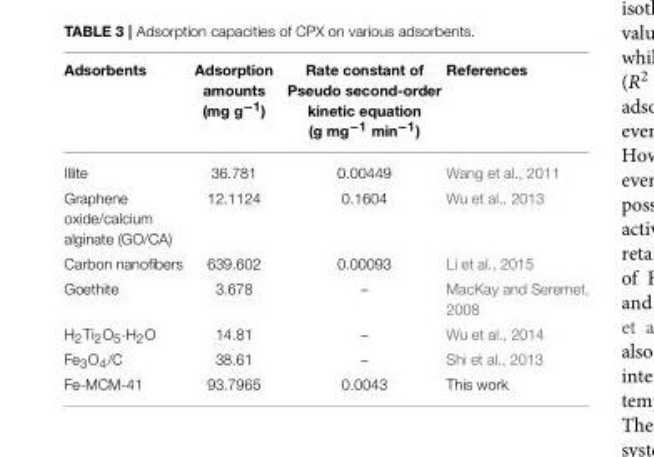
<table><thead><tr><td>Adsorbents</td><td>Adsorption amounts (mg g<sup>−1</sup>)</td><td>Rate constant of Pseudo second-order kinetic equation (g mg<sup>−1</sup> min<sup>−1</sup>)</td><td>References</td></tr></thead><tbody><tr><td>Illite</td><td>36.781</td><td>0.00449</td><td>Wang et al., 2011</td></tr><tr><td>Graphene oxide/calcium alginate (GO/CA)</td><td>12.1124</td><td>0.1604</td><td>Wu et al., 2013</td></tr><tr><td>Carbon nanofibers</td><td>639.602</td><td>0.00093</td><td>Li et al., 2015</td></tr><tr><td>Goethite</td><td>3.678</td><td>–</td><td>MacKay and Seremet, 2008</td></tr><tr><td>H<sub>2</sub>Ti<sub>2</sub>O<sub>5</sub>·H<sub>2</sub>O</td><td>14.81</td><td>–</td><td>Wu et al., 2014</td></tr><tr><td>Fe<sub>3</sub>O<sub>4</sub>/C</td><td>38.61</td><td>–</td><td>Shi et al., 2013</td></tr><tr><td>Fe-MCM-41</td><td>93.7965</td><td>0.0043</td><td>This work</td></tr></tbody></table>